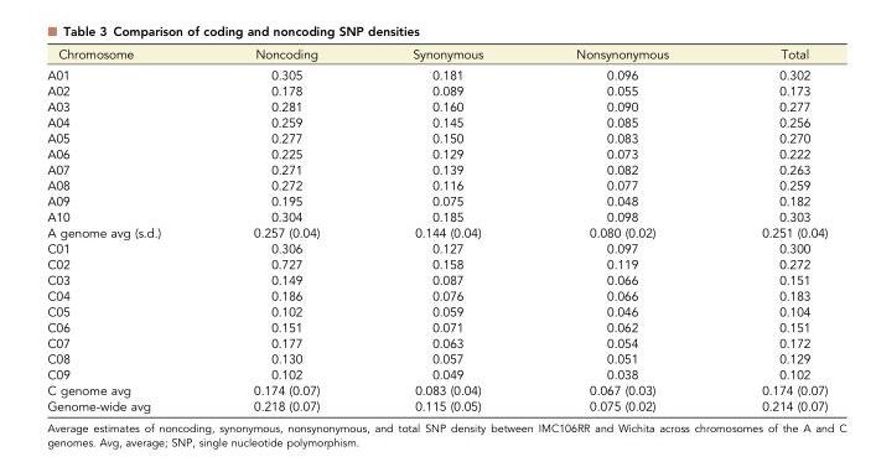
<table><thead><tr><td>Chromosome</td><td>Noncoding</td><td>Synonymous</td><td>Nonsynonymous</td><td>Total</td></tr></thead><tbody><tr><td>A01</td><td>0.305</td><td>0.181</td><td>0.096</td><td>0.302</td></tr><tr><td>A02</td><td>0.178</td><td>0.089</td><td>0.055</td><td>0.173</td></tr><tr><td>A03</td><td>0.281</td><td>0.160</td><td>0.090</td><td>0.277</td></tr><tr><td>A04</td><td>0.259</td><td>0.145</td><td>0.085</td><td>0.256</td></tr><tr><td>A05</td><td>0.277</td><td>0.150</td><td>0.083</td><td>0.270</td></tr><tr><td>A06</td><td>0.225</td><td>0.129</td><td>0.073</td><td>0.222</td></tr><tr><td>A07</td><td>0.271</td><td>0.139</td><td>0.082</td><td>0.263</td></tr><tr><td>A08</td><td>0.272</td><td>0.116</td><td>0.077</td><td>0.259</td></tr><tr><td>A09</td><td>0.195</td><td>0.075</td><td>0.048</td><td>0.182</td></tr><tr><td>A10</td><td>0.304</td><td>0.185</td><td>0.098</td><td>0.303</td></tr><tr><td>A genome avg (s.d.)</td><td>0.257 (0.04)</td><td>0.144 (0.04)</td><td>0.080 (0.02)</td><td>0.251 (0.04)</td></tr><tr><td>C01</td><td>0.306</td><td>0.127</td><td>0.097</td><td>0.300</td></tr><tr><td>C02</td><td>0.727</td><td>0.158</td><td>0.119</td><td>0.272</td></tr><tr><td>C03</td><td>0.149</td><td>0.087</td><td>0.066</td><td>0.151</td></tr><tr><td>C04</td><td>0.186</td><td>0.076</td><td>0.066</td><td>0.183</td></tr><tr><td>C05</td><td>0.102</td><td>0.059</td><td>0.046</td><td>0.104</td></tr><tr><td>C06</td><td>0.151</td><td>0.071</td><td>0.062</td><td>0.151</td></tr><tr><td>C07</td><td>0.177</td><td>0.063</td><td>0.054</td><td>0.172</td></tr><tr><td>C08</td><td>0.130</td><td>0.057</td><td>0.051</td><td>0.129</td></tr><tr><td>C09</td><td>0.102</td><td>0.049</td><td>0.038</td><td>0.102</td></tr><tr><td>C genome avg</td><td>0.174 (0.07)</td><td>0.083 (0.04)</td><td>0.067 (0.03)</td><td>0.174 (0.07)</td></tr><tr><td>Genome-wide avg</td><td>0.218 (0.07)</td><td>0.115 (0.05)</td><td>0.075 (0.02)</td><td>0.214 (0.07)</td></tr></tbody></table>